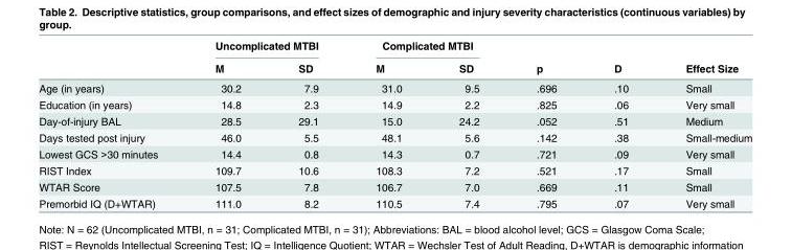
<table><thead><tr><td rowspan="2"></td><td colspan="2">Uncomplicated MTBI</td><td colspan="2">Complicated MTBI</td><td rowspan="2">p</td><td rowspan="2">D</td><td rowspan="2">Effect Size</td></tr><tr><td>M</td><td>SD</td><td>M</td><td>SD</td></tr></thead><tbody><tr><td>Age (in years)</td><td>30.2</td><td>7.9</td><td>31.0</td><td>9.5</td><td>.696</td><td>.10</td><td>Small</td></tr><tr><td>Education (in years)</td><td>14.8</td><td>2.3</td><td>14.9</td><td>2.2</td><td>.825</td><td>.06</td><td>Very small</td></tr><tr><td>Day-of-injury BAL</td><td>28.5</td><td>29.1</td><td>15.0</td><td>24.2</td><td>.052</td><td>.51</td><td>Medium</td></tr><tr><td>Days tested post injury</td><td>46.0</td><td>5.5</td><td>48.1</td><td>5.6</td><td>.142</td><td>.38</td><td>Small-medium</td></tr><tr><td>Lowest GCS &gt;30 minutes</td><td>14.4</td><td>0.8</td><td>14.3</td><td>0.7</td><td>.721</td><td>.09</td><td>Very small</td></tr><tr><td>RIST Index</td><td>109.7</td><td>10.6</td><td>108.3</td><td>7.2</td><td>.521</td><td>.17</td><td>Small</td></tr><tr><td>WTAR Score</td><td>107.5</td><td>7.8</td><td>106.7</td><td>7.0</td><td>.669</td><td>.11</td><td>Small</td></tr><tr><td>Premorbid IQ (D+WTAR)</td><td>111.0</td><td>8.2</td><td>110.5</td><td>7.4</td><td>.795</td><td>.07</td><td>Very small</td></tr></tbody></table>